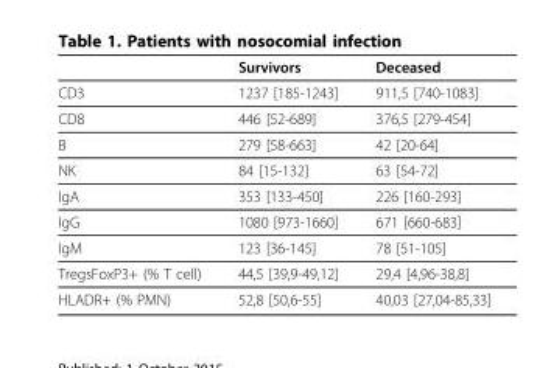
<table><thead><tr><td></td><td>Survivors</td><td>Deceased</td></tr></thead><tbody><tr><td>CD3</td><td>1237 [185-1243]</td><td>911,5 [740-1083]</td></tr><tr><td>CD8</td><td>446 [52-689]</td><td>376,5 [279-454]</td></tr><tr><td>B</td><td>279 [58-663]</td><td>42 [20-64]</td></tr><tr><td>NK</td><td>84 [15-132]</td><td>63 [54-72]</td></tr><tr><td>IgA</td><td>353 [133-450]</td><td>226 [160-293]</td></tr><tr><td>IgG</td><td>1080 [973-1660]</td><td>671 [660-683]</td></tr><tr><td>IgM</td><td>123 [36-145]</td><td>78 [51-105]</td></tr><tr><td>TregsFoxP3+ (% T cell)</td><td>44,5 [39,9-49,12]</td><td>29,4 [4,96-38,8]</td></tr><tr><td>HLADR+ (% PMN)</td><td>52,8 [50,6-55]</td><td>40,03 [27,04-85,33]</td></tr></tbody></table>